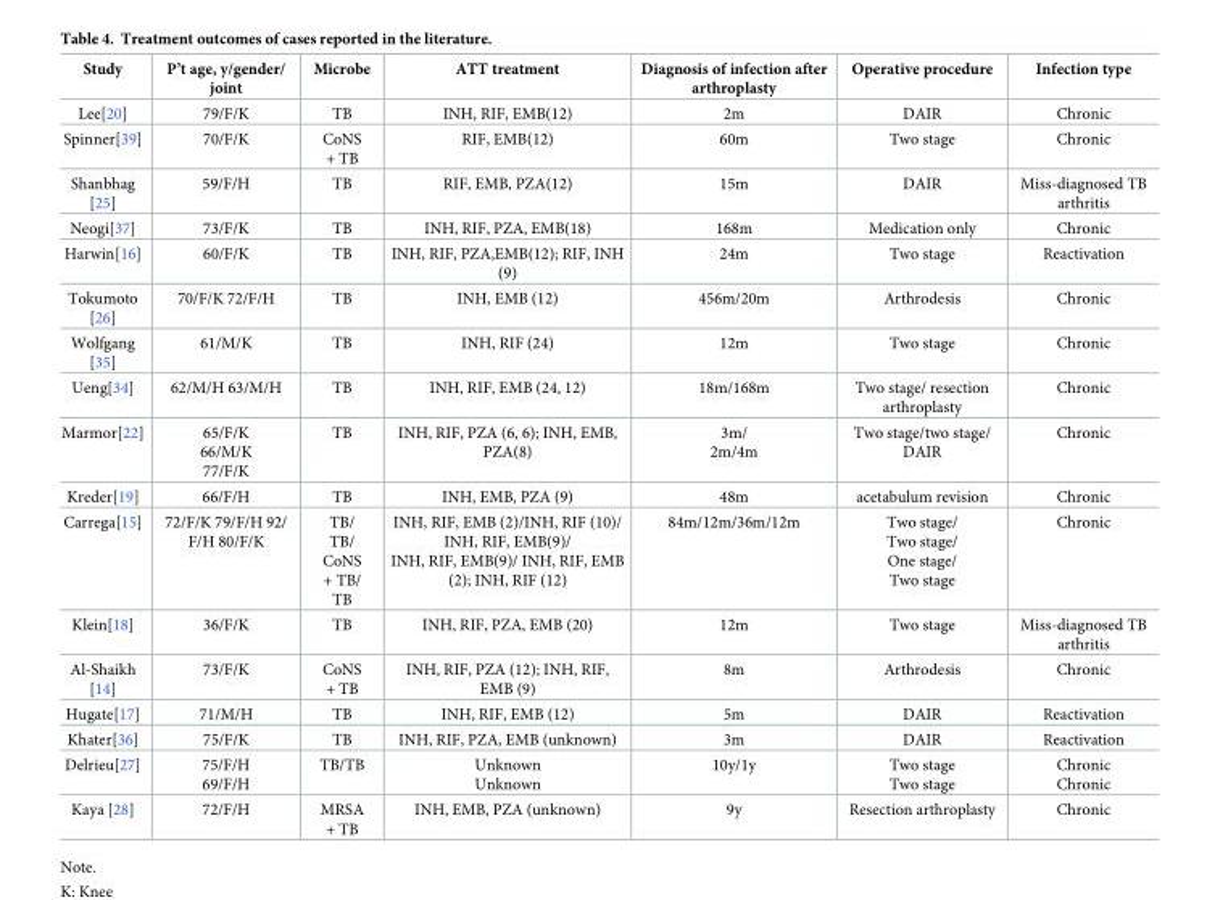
<table><thead><tr><td>Study</td><td>P’t age, y/gender/ joint</td><td>Microbe</td><td>ATT treatment</td><td>Diagnosis of infection after arthroplasty</td><td>Operative procedure</td><td>Infection type</td></tr></thead><tbody><tr><td>Lee[20]</td><td>79/F/K</td><td>TB</td><td>INH, RIF, EMB(12)</td><td>2m</td><td>DAIR</td><td>Chronic</td></tr><tr><td>Spinner[39]</td><td>70/F/K</td><td>CoNS + TB</td><td>RIF, EMB(12)</td><td>60m</td><td>Two stage</td><td>Chronic</td></tr><tr><td>Shanbhag [25]</td><td>59/F/H</td><td>TB</td><td>RIF, EMB, PZA(12)</td><td>15m</td><td>DAIR</td><td>Miss-diagnosed TB arthritis</td></tr><tr><td>Neogi[37]</td><td>73/F/K</td><td>TB</td><td>INH, RIF, PZA, EMB(18)</td><td>168m</td><td>Medication only</td><td>Chronic</td></tr><tr><td>Harwin[16]</td><td>60/F/K</td><td>TB</td><td>INH, RIF, PZA,EMB(12); RIF, INH (9)</td><td>24m</td><td>Two stage</td><td>Reactivation</td></tr><tr><td>Tokumoto [26]</td><td>70/F/K 72/F/H</td><td>TB</td><td>INH, EMB (12)</td><td>456m/20m</td><td>Arthrodesis</td><td>Chronic</td></tr><tr><td>Wolfgang [35]</td><td>61/M/K</td><td>TB</td><td>INH, RIF (24)</td><td>12m</td><td>Two stage</td><td>Chronic</td></tr><tr><td>Ueng[34]</td><td>62/M/H 63/M/H</td><td>TB</td><td>INH, RIF, EMB (24, 12)</td><td>18m/168m</td><td>Two stage/ resection arthroplasty</td><td>Chronic</td></tr><tr><td>Marmor[22]</td><td>65/F/K 66/M/K 77/F/K</td><td>TB</td><td>INH, RIF, PZA (6, 6); INH, EMB, PZA(8)</td><td>3m/ 2m/4m</td><td>Two stage/two stage/ DAIR</td><td>Chronic</td></tr><tr><td>Kreder[19]</td><td>66/F/H</td><td>TB</td><td>INH, EMB, PZA (9)</td><td>48m</td><td>acetabulum revision</td><td>Chronic</td></tr><tr><td>Carrega[15]</td><td>72/F/K 79/F/H 92/ F/H 80/F/K</td><td>TB/ TB/ CoNS + TB/ TB</td><td>INH, RIF, EMB (2)/INH, RIF (10)/ INH, RIF, EMB(9)/ INH, RIF, EMB(9)/ INH, RIF, EMB (2); INH, RIF (12)</td><td>84m/12m/36m/12m</td><td>Two stage/ Two stage/ One stage/ Two stage</td><td>Chronic</td></tr><tr><td>Klein[18]</td><td>36/F/K</td><td>TB</td><td>INH, RIF, PZA, EMB (20)</td><td>12m</td><td>Two stage</td><td>Miss-diagnosed TB arthritis</td></tr><tr><td>Al-Shaikh [14]</td><td>73/F/K</td><td>CoNS + TB</td><td>INH, RIF, PZA (12); INH, RIF, EMB (9)</td><td>8m</td><td>Arthrodesis</td><td>Chronic</td></tr><tr><td>Hugate[17]</td><td>71/M/H</td><td>TB</td><td>INH, RIF, EMB (12)</td><td>5m</td><td>DAIR</td><td>Reactivation</td></tr><tr><td>Khater[36]</td><td>75/F/K</td><td>TB</td><td>INH, RIF, PZA, EMB (unknown)</td><td>3m</td><td>DAIR</td><td>Reactivation</td></tr><tr><td>Delrieu[27]</td><td>75/F/H 69/F/H</td><td>TB/TB</td><td>Unknown Unknown</td><td>10y/1y</td><td>Two stage Two stage</td><td>Chronic Chronic</td></tr><tr><td>Kaya [28]</td><td>72/F/H</td><td>MRSA + TB</td><td>INH, EMB, PZA (unknown)</td><td>9y</td><td>Resection arthroplasty</td><td>Chronic</td></tr></tbody></table>